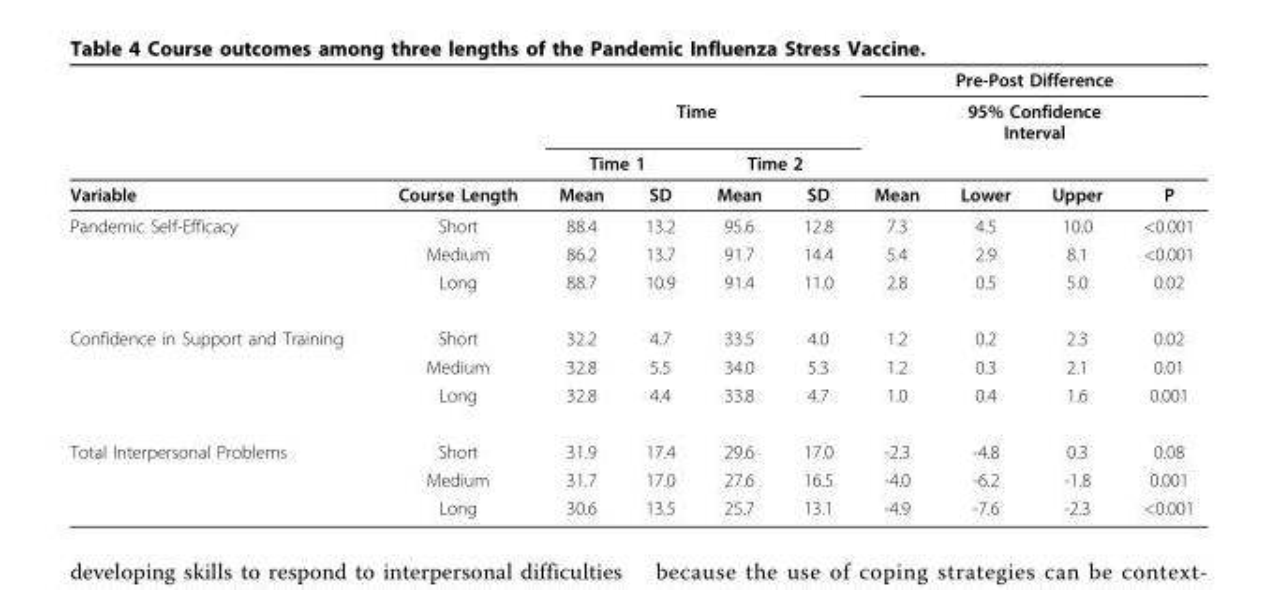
<table><thead><tr><td rowspan="3"></td><td rowspan="3"></td><td></td><td></td><td></td><td></td><td rowspan="2" colspan="4">Pre-Post Difference 95% Confidence Interval</td></tr><tr><td colspan="4">Time</td></tr><tr><td colspan="2">Time 1</td><td colspan="2">Time 2</td><td></td><td></td><td></td><td></td></tr></thead><tbody><tr><td>Variable</td><td>Course Length</td><td>Mean</td><td>SD</td><td>Mean</td><td>SD</td><td>Mean</td><td>Lower</td><td>Upper</td><td>P</td></tr><tr><td rowspan="3">Pandemic Self-Efficacy</td><td>Short</td><td>88.4</td><td>13.2</td><td>95.6</td><td>12.8</td><td>7.3</td><td>4.5</td><td>10.0</td><td>&lt;0.001</td></tr><tr><td>Medium</td><td>86.2</td><td>13.7</td><td>91.7</td><td>14.4</td><td>5.4</td><td>2.9</td><td>8.1</td><td>&lt;0.001</td></tr><tr><td>Long</td><td>88.7</td><td>10.9</td><td>91.4</td><td>11.0</td><td>2.8</td><td>0.5</td><td>5.0</td><td>0.02</td></tr><tr><td rowspan="3">Confidence in Support and Training</td><td>Short</td><td>32.2</td><td>4.7</td><td>33.5</td><td>4.0</td><td>1.2</td><td>0.2</td><td>2.3</td><td>0.02</td></tr><tr><td>Medium</td><td>32.8</td><td>5.5</td><td>34.0</td><td>5.3</td><td>1.2</td><td>0.3</td><td>2.1</td><td>0.01</td></tr><tr><td>Long</td><td>32.8</td><td>4.4</td><td>33.8</td><td>4.7</td><td>1.0</td><td>0.4</td><td>1.6</td><td>0.001</td></tr><tr><td rowspan="3">Total Interpersonal Problems</td><td>Short</td><td>31.9</td><td>17.4</td><td>29.6</td><td>17.0</td><td>-2.3</td><td>-4.8</td><td>0.3</td><td>0.08</td></tr><tr><td>Medium</td><td>31.7</td><td>17.0</td><td>27.6</td><td>16.5</td><td>-4.0</td><td>-6.2</td><td>-1.8</td><td>0.001</td></tr><tr><td>Long</td><td>30.6</td><td>13.5</td><td>25.7</td><td>13.1</td><td>-4.9</td><td>-7.6</td><td>-2.3</td><td>&lt;0.001</td></tr></tbody></table>